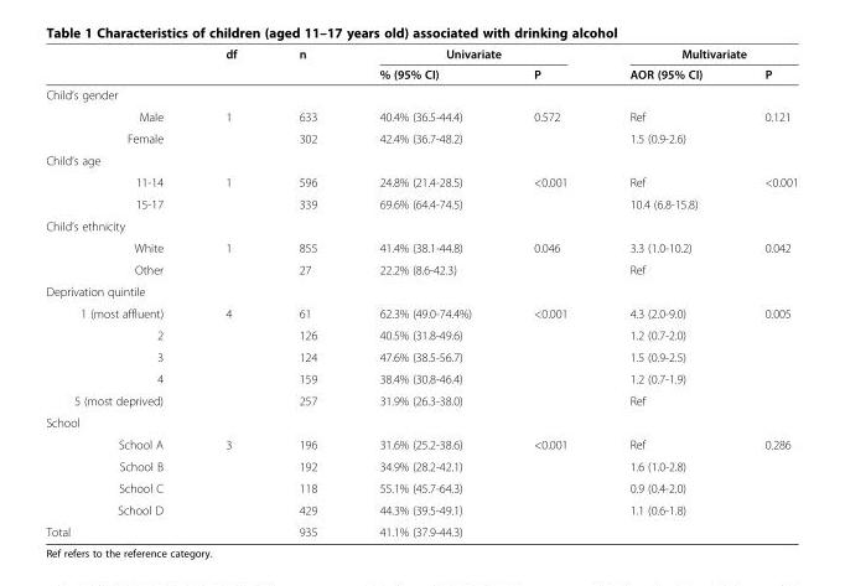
<table><thead><tr><td rowspan="2"></td><td rowspan="2">df</td><td rowspan="2">n</td><td colspan="2">Univariate</td><td colspan="2">Multivariate</td></tr><tr><td>% (95% CI)</td><td>P</td><td>AOR (95% CI)</td><td>P</td></tr></thead><tbody><tr><td colspan="7">Child’s gender</td></tr><tr><td>Male</td><td>1</td><td>633</td><td>40.4% (36.5-44.4)</td><td>0.572</td><td>Ref</td><td>0.121</td></tr><tr><td>Female</td><td></td><td>302</td><td>42.4% (36.7-48.2)</td><td></td><td>1.5 (0.9-2.6)</td><td></td></tr><tr><td colspan="7">Child’s age</td></tr><tr><td>11-14</td><td>1</td><td>596</td><td>24.8% (21.4-28.5)</td><td>&lt;0.001</td><td>Ref</td><td>&lt;0.001</td></tr><tr><td>15-17</td><td></td><td>339</td><td>69.6% (64.4-74.5)</td><td></td><td>10.4 (6.8-15.8)</td><td></td></tr><tr><td colspan="7">Child’s ethnicity</td></tr><tr><td>White</td><td>1</td><td>855</td><td>41.4% (38.1-44.8)</td><td>0.046</td><td>3.3 (1.0-10.2)</td><td>0.042</td></tr><tr><td>Other</td><td></td><td>27</td><td>22.2% (8.6-42.3)</td><td></td><td>Ref</td><td></td></tr><tr><td colspan="7">Deprivation quintile</td></tr><tr><td>1 (most affluent)</td><td>4</td><td>61</td><td>62.3% (49.0-74.4%)</td><td>&lt;0.001</td><td>4.3 (2.0-9.0)</td><td>0.005</td></tr><tr><td>2</td><td></td><td>126</td><td>40.5% (31.8-49.6)</td><td></td><td>1.2 (0.7-2.0)</td><td></td></tr><tr><td>3</td><td></td><td>124</td><td>47.6% (38.5-56.7)</td><td></td><td>1.5 (0.9-2.5)</td><td></td></tr><tr><td>4</td><td></td><td>159</td><td>38.4% (30.8-46.4)</td><td></td><td>1.2 (0.7-1.9)</td><td></td></tr><tr><td>5 (most deprived)</td><td></td><td>257</td><td>31.9% (26.3-38.0)</td><td></td><td>Ref</td><td></td></tr><tr><td colspan="7">School</td></tr><tr><td>School A</td><td>3</td><td>196</td><td>31.6% (25.2-38.6)</td><td>&lt;0.001</td><td>Ref</td><td>0.286</td></tr><tr><td>School B</td><td></td><td>192</td><td>34.9% (28.2-42.1)</td><td></td><td>1.6 (1.0-2.8)</td><td></td></tr><tr><td>School C</td><td></td><td>118</td><td>55.1% (45.7-64.3)</td><td></td><td>0.9 (0.4-2.0)</td><td></td></tr><tr><td>School D</td><td></td><td>429</td><td>44.3% (39.5-49.1)</td><td></td><td>1.1 (0.6-1.8)</td><td></td></tr><tr><td>Total</td><td></td><td>935</td><td>41.1% (37.9-44.3)</td><td></td><td></td><td></td></tr></tbody></table>